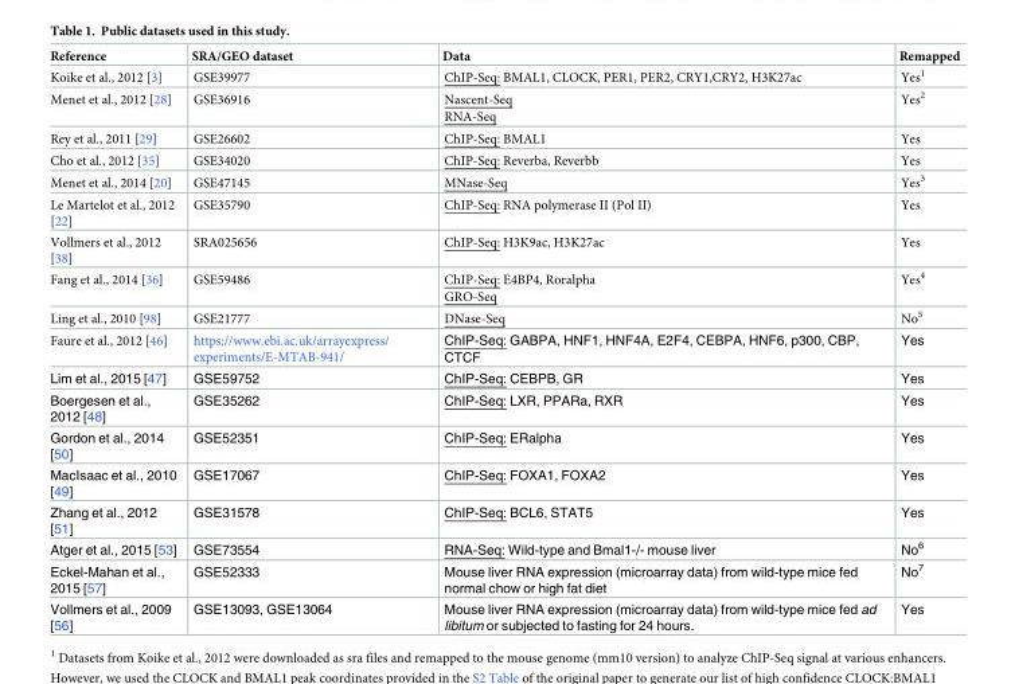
<table><thead><tr><td>Reference</td><td>SRA/GEO dataset</td><td>Data</td><td>Remapped</td></tr></thead><tbody><tr><td>Koike et al., 2012 [3]</td><td>GSE39977</td><td>ChIP-Seq: BMAL1, CLOCK, PER1, PER2, CRY1,CRY2, H3K27ac</td><td>Yes<sup>1</sup></td></tr><tr><td>Menet et al., 2012 [28]</td><td>GSE36916</td><td>Nascent-Seq RNA-Seq</td><td>Yes<sup>2</sup></td></tr><tr><td>Rey et al., 2011 [29]</td><td>GSE26602</td><td>ChIP-Seq: BMAL1</td><td>Yes</td></tr><tr><td>Cho et al., 2012 [35]</td><td>GSE34020</td><td>ChIP-Seq: Reverba, Reverbb</td><td>Yes</td></tr><tr><td>Menet et al., 2014 [20]</td><td>GSE47145</td><td>MNase-Seq</td><td>Yes<sup>3</sup></td></tr><tr><td>Le Martelot et al., 2012 [22]</td><td>GSE35790</td><td>ChIP-Seq: RNA polymerase II (Pol II)</td><td>Yes</td></tr><tr><td>Vollmers et al., 2012 [38]</td><td>SRA025656</td><td>ChIP-Seq: H3K9ac, H3K27ac</td><td>Yes</td></tr><tr><td>Fang et al., 2014 [36]</td><td>GSE59486</td><td>ChIP-Seq: E4BP4, Roralpha GRO-Seq</td><td>Yes<sup>4</sup></td></tr><tr><td>Ling et al., 2010 [98]</td><td>GSE21777</td><td>DNase-Seq</td><td>No<sup>5</sup></td></tr><tr><td>Faure et al., 2012 [46]</td><td>https://www.ebi.ac.uk/arrayexpress/ experiments/E-MTAB-941/</td><td>ChIP-Seq: GABPA, HNF1, HNF4A, E2F4, CEBPA, HNF6, p300, CBP, CTCF</td><td>Yes</td></tr><tr><td>Lim et al., 2015 [47]</td><td>GSE59752</td><td>ChIP-Seq: CEBPB, GR</td><td>Yes</td></tr><tr><td>Boergesen et al., 2012 [48]</td><td>GSE35262</td><td>ChIP-Seq: LXR, PPARa, RXR</td><td>Yes</td></tr><tr><td>Gordon et al., 2014 [50]</td><td>GSE52351</td><td>ChIP-Seq: ERalpha</td><td>Yes</td></tr><tr><td>MacIsaac et al., 2010 [49]</td><td>GSE17067</td><td>ChIP-Seq: FOXA1, FOXA2</td><td>Yes</td></tr><tr><td>Zhang et al., 2012 [51]</td><td>GSE31578</td><td>ChIP-Seq: BCL6, STAT5</td><td>Yes</td></tr><tr><td>Atger et al., 2015 [53]</td><td>GSE73554</td><td>RNA-Seq: Wild-type and Bmal1-/- mouse liver</td><td>No<sup>6</sup></td></tr><tr><td>Eckel-Mahan et al., 2015 [57]</td><td>GSE52333</td><td>Mouse liver RNA expression (microarray data) from wild-type mice fed normal chow or high fat diet</td><td>No<sup>7</sup></td></tr><tr><td>Vollmers et al., 2009 [56]</td><td>GSE13093, GSE13064</td><td>Mouse liver RNA expression (microarray data) from wild-type mice fed ad libitum or subjected to fasting for 24 hours.</td><td>Yes</td></tr></tbody></table>